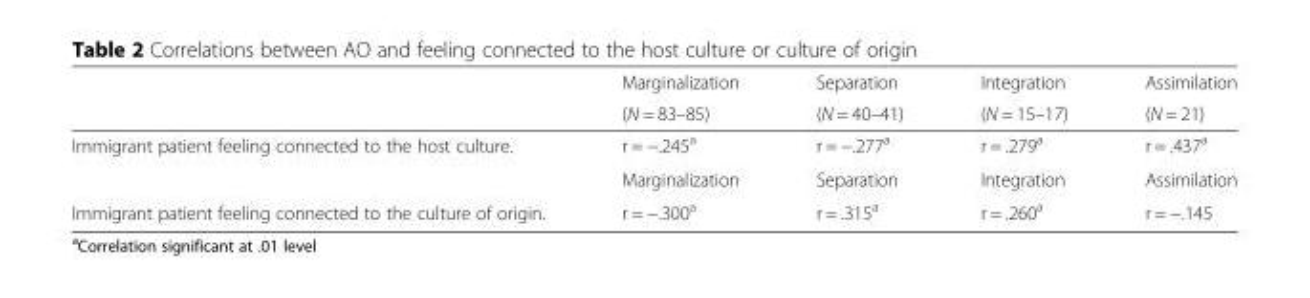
<table><thead><tr><td rowspan="2"></td><td rowspan="2">Marginalization (N = 83–85)</td><td rowspan="2">Separation (N = 40–41)</td><td rowspan="2">Integration (N = 15–17)</td><td rowspan="2">Assimilation (N = 21)</td></tr><tr></tr></thead><tbody><tr><td rowspan="2">Immigrant patient feeling connected to the host culture.</td><td>r = −.245<sup>a</sup></td><td>r = −.277<sup>a</sup></td><td>r = .279<sup>a</sup></td><td>r = .437<sup>a</sup></td></tr><tr><td>Marginalization</td><td>Separation</td><td>Integration</td><td>Assimilation</td></tr><tr><td>Immigrant patient feeling connected to the culture of origin.</td><td>r = −.300<sup>a</sup></td><td>r = .315<sup>a</sup></td><td>r = .260<sup>a</sup></td><td>r = −.145</td></tr></tbody></table>